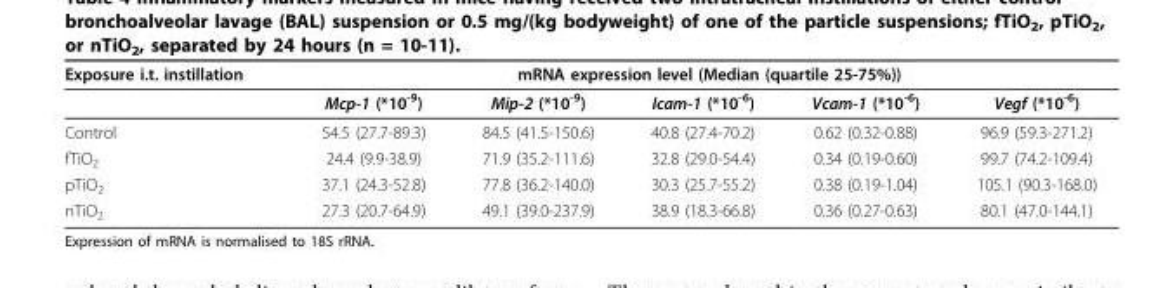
<table><thead><tr><td rowspan="2">Exposure i.t. instillation</td><td colspan="5">mRNA expression level (Median (quartile 25-75%))</td></tr><tr><td>Mcp-1 (*10<sup>-9</sup>)</td><td>Mip-2 (*10<sup>-9</sup>)</td><td>Icam-1 (*10<sup>-6</sup>)</td><td>Vcam-1 (*10<sup>-6</sup>)</td><td>Vegf (*10<sup>-6</sup>)</td></tr></thead><tbody><tr><td>Control</td><td>54.5 (27.7-89.3)</td><td>84.5 (41.5-150.6)</td><td>40.8 (27.4-70.2)</td><td>0.62 (0.32-0.88)</td><td>96.9 (59.3-271.2)</td></tr><tr><td>fTiO<sub>2</sub></td><td>24.4 (9.9-38.9)</td><td>71.9 (35.2-111.6)</td><td>32.8 (29.0-54.4)</td><td>0.34 (0.19-0.60)</td><td>99.7 (74.2-109.4)</td></tr><tr><td>pTiO<sub>2</sub></td><td>37.1 (24.3-52.8)</td><td>77.8 (36.2-140.0)</td><td>30.3 (25.7-55.2)</td><td>0.38 (0.19-1.04)</td><td>105.1 (90.3-168.0)</td></tr><tr><td>nTiO<sub>2</sub></td><td>27.3 (20.7-64.9)</td><td>49.1 (39.0-237.9)</td><td>38.9 (18.3-66.8)</td><td>0.36 (0.27-0.63)</td><td>80.1 (47.0-144.1)</td></tr></tbody></table>